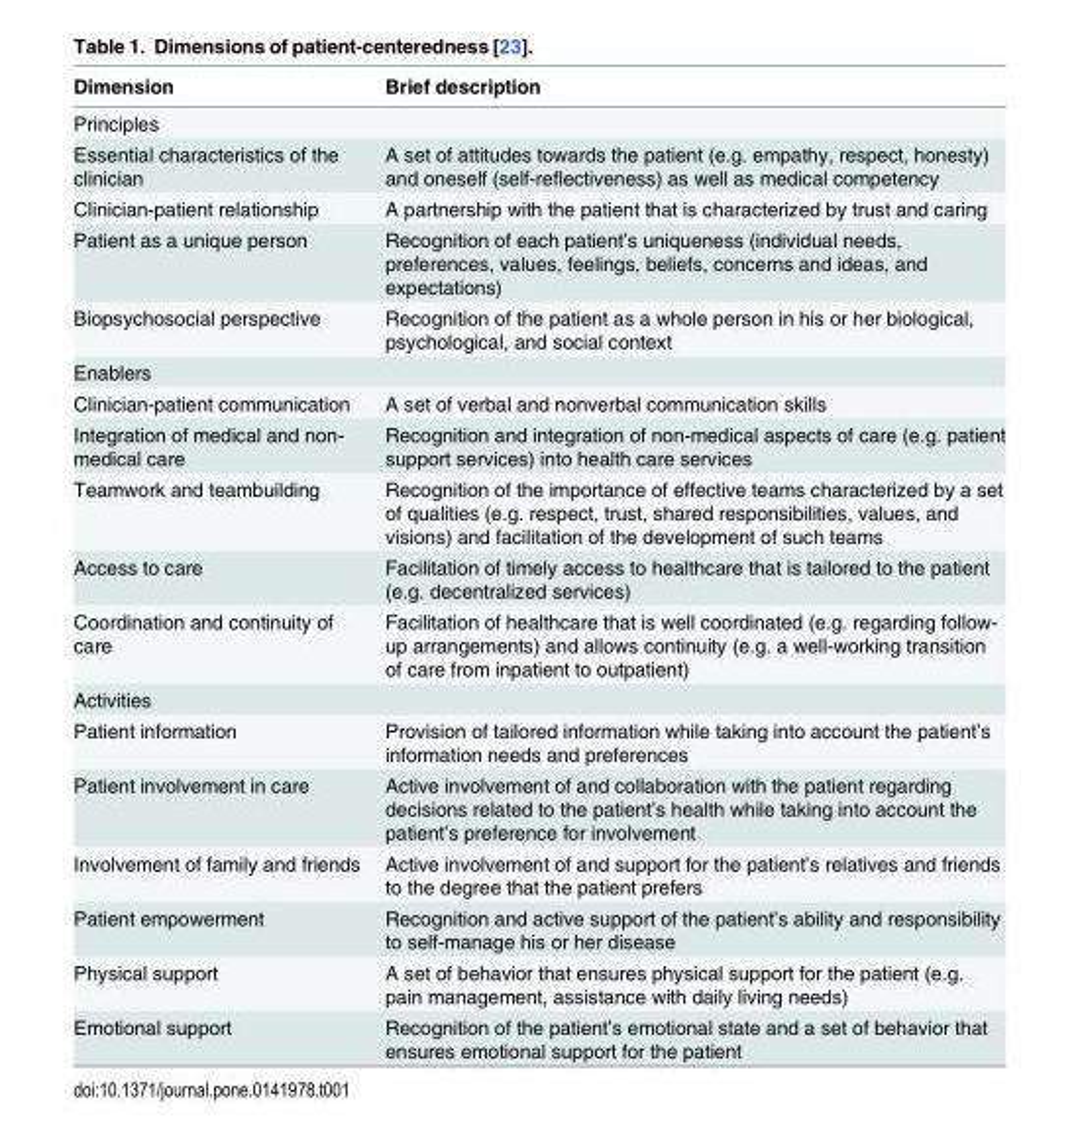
<table><thead><tr><td>Dimension</td><td>Brief description</td></tr></thead><tbody><tr><td colspan="2">Principles</td></tr><tr><td>Essential characteristics of the clinician</td><td>A set of attitudes towards the patient (e.g. empathy, respect, honesty) and oneself (self-reflectiveness) as well as medical competency</td></tr><tr><td>Clinician-patient relationship</td><td>A partnership with the patient that is characterized by trust and caring</td></tr><tr><td>Patient as a unique person</td><td>Recognition of each patient’s uniqueness (individual needs, preferences, values, feelings, beliefs, concerns and ideas, and expectations)</td></tr><tr><td>Biopsychosocial perspective</td><td>Recognition of the patient as a whole person in his or her biological, psychological, and social context</td></tr><tr><td colspan="2">Enablers</td></tr><tr><td>Clinician-patient communication</td><td>A set of verbal and nonverbal communication skills</td></tr><tr><td>Integration of medical and non- medical care</td><td>Recognition and integration of non-medical aspects of care (e.g. patient support services) into health care services</td></tr><tr><td>Teamwork and teambuilding</td><td>Recognition of the importance of effective teams characterized by a set of qualities (e.g. respect, trust, shared responsibilities, values, and visions) and facilitation of the development of such teams</td></tr><tr><td>Access to care</td><td>Facilitation of timely access to healthcare that is tailored to the patient (e.g. decentralized services)</td></tr><tr><td>Coordination and continuity of care</td><td>Facilitation of healthcare that is well coordinated (e.g. regarding follow- up arrangements) and allows continuity (e.g. a well-working transition of care from inpatient to outpatient)</td></tr><tr><td colspan="2">Activities</td></tr><tr><td>Patient information</td><td>Provision of tailored information while taking into account the patient’s information needs and preferences</td></tr><tr><td>Patient involvement in care</td><td>Active involvement of and collaboration with the patient regarding decisions related to the patient’s health while taking into account the patient’s preference for involvement</td></tr><tr><td>Involvement of family and friends</td><td>Active involvement of and support for the patient’s relatives and friends to the degree that the patient prefers</td></tr><tr><td>Patient empowerment</td><td>Recognition and active support of the patient’s ability and responsibility to self-manage his or her disease</td></tr><tr><td>Physical support</td><td>A set of behavior that ensures physical support for the patient (e.g. pain management, assistance with daily living needs)</td></tr><tr><td>Emotional support</td><td>Recognition of the patient’s emotional state and a set of behavior that ensures emotional support for the patient</td></tr></tbody></table>